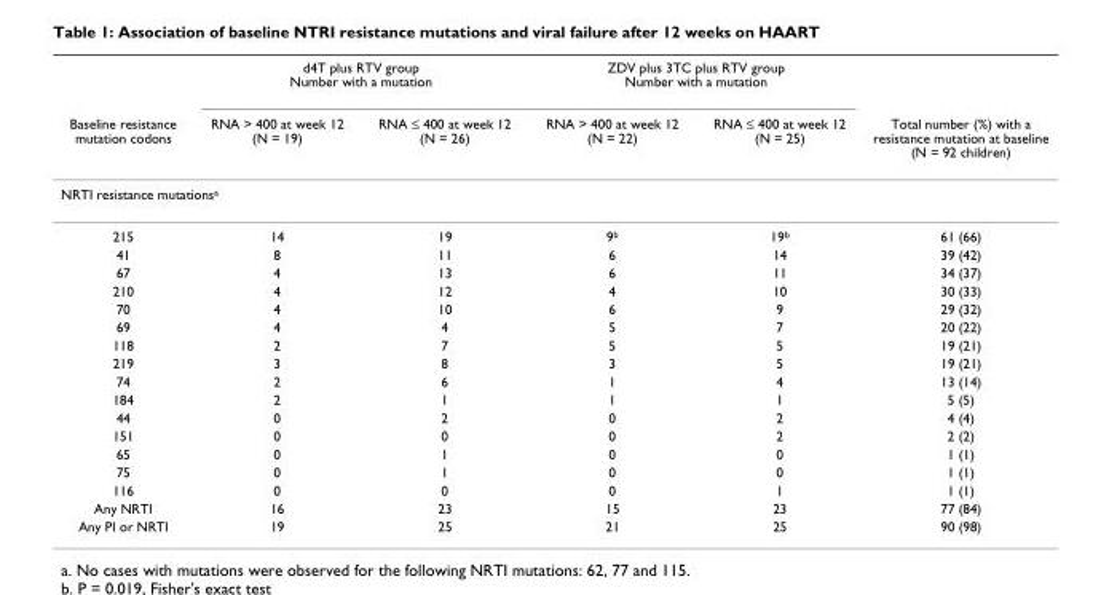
<table><thead><tr><td rowspan="2">Baseline resistance mutation codons</td><td colspan="2">d4T plus RTV group Number with a mutation</td><td colspan="2">ZDV plus 3TC plus RTV group Number with a mutation</td><td rowspan="2">Total number (%) with a resistance mutation at baseline (N = 92 children)</td></tr><tr><td>RNA &gt; 400 at week 12 (N = 19)</td><td>RNA ≤ 400 at week 12 (N = 26)</td><td>RNA &gt; 400 at week 12 (N = 22)</td><td>RNA ≤ 400 at week 12 (N = 25)</td></tr></thead><tbody><tr><td colspan="6">NRTI resistance mutations<sup>a</sup></td></tr><tr><td>215</td><td>14</td><td>19</td><td>9<sup>b</sup></td><td>19<sup>b</sup></td><td>61 (66)</td></tr><tr><td>41</td><td>8</td><td>11</td><td>6</td><td>14</td><td>39 (42)</td></tr><tr><td>67</td><td>4</td><td>13</td><td>6</td><td>11</td><td>34 (37)</td></tr><tr><td>210</td><td>4</td><td>12</td><td>4</td><td>10</td><td>30 (33)</td></tr><tr><td>70</td><td>4</td><td>10</td><td>6</td><td>9</td><td>29 (32)</td></tr><tr><td>69</td><td>4</td><td>4</td><td>5</td><td>7</td><td>20 (22)</td></tr><tr><td>118</td><td>2</td><td>7</td><td>5</td><td>5</td><td>19 (21)</td></tr><tr><td>219</td><td>3</td><td>8</td><td>3</td><td>5</td><td>19 (21)</td></tr><tr><td>74</td><td>2</td><td>6</td><td>1</td><td>4</td><td>13 (14)</td></tr><tr><td>184</td><td>2</td><td>1</td><td>1</td><td>1</td><td>5 (5)</td></tr><tr><td>44</td><td>0</td><td>2</td><td>0</td><td>2</td><td>4 (4)</td></tr><tr><td>151</td><td>0</td><td>0</td><td>0</td><td>2</td><td>2 (2)</td></tr><tr><td>65</td><td>0</td><td>1</td><td>0</td><td>0</td><td>1 (1)</td></tr><tr><td>75</td><td>0</td><td>1</td><td>0</td><td>0</td><td>1 (1)</td></tr><tr><td>116</td><td>0</td><td>0</td><td>0</td><td>1</td><td>1 (1)</td></tr><tr><td>Any NRTI</td><td>16</td><td>23</td><td>15</td><td>23</td><td>77 (84)</td></tr><tr><td>Any PI or NRTI</td><td>19</td><td>25</td><td>21</td><td>25</td><td>90 (98)</td></tr></tbody></table>